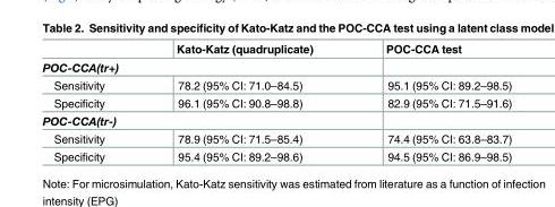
<table><thead><tr><td></td><td>Kato-Katz (quadruplicate)</td><td>POC-CCA test</td></tr></thead><tbody><tr><td colspan="3">POC-CCA(tr+)</td></tr><tr><td>Sensitivity</td><td>78.2 (95% CI: 71.0–84.5)</td><td>95.1 (95% CI: 89.2–98.5)</td></tr><tr><td>Specificity</td><td>96.1 (95% CI: 90.8–98.8)</td><td>82.9 (95% CI: 71.5–91.6)</td></tr><tr><td colspan="3">POC-CCA(tr-)</td></tr><tr><td>Sensitivity</td><td>78.9 (95% CI: 71.5–85.4)</td><td>74.4 (95% CI: 63.8–83.7)</td></tr><tr><td>Specificity</td><td>95.4 (95% CI: 89.2–98.6)</td><td>94.5 (95% CI: 86.9–98.5)</td></tr></tbody></table>